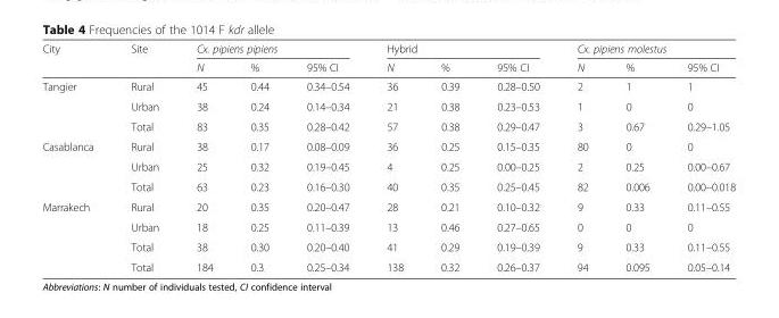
<table><thead><tr><td rowspan="2">City</td><td rowspan="2">Site</td><td colspan="3">Cx. pipiens pipiens</td><td colspan="3">Hybrid</td><td colspan="3">Cx. pipiens molestus</td></tr><tr><td>N</td><td>%</td><td>95% CI</td><td>N</td><td>%</td><td>95% CI</td><td>N</td><td>%</td><td>95% CI</td></tr></thead><tbody><tr><td rowspan="3">Tangier</td><td>Rural</td><td>45</td><td>0.44</td><td>0.34–0.54</td><td>36</td><td>0.39</td><td>0.28–0.50</td><td>2</td><td>1</td><td>1</td></tr><tr><td>Urban</td><td>38</td><td>0.24</td><td>0.14–0.34</td><td>21</td><td>0.38</td><td>0.23–0.53</td><td>1</td><td>0</td><td>0</td></tr><tr><td>Total</td><td>83</td><td>0.35</td><td>0.28–0.42</td><td>57</td><td>0.38</td><td>0.29–0.47</td><td>3</td><td>0.67</td><td>0.29–1.05</td></tr><tr><td rowspan="3">Casablanca</td><td>Rural</td><td>38</td><td>0.17</td><td>0.08–0.09</td><td>36</td><td>0.25</td><td>0.15–0.35</td><td>80</td><td>0</td><td>0</td></tr><tr><td>Urban</td><td>25</td><td>0.32</td><td>0.19–0.45</td><td>4</td><td>0.25</td><td>0.00–0.25</td><td>2</td><td>0.25</td><td>0.00–0.67</td></tr><tr><td>Total</td><td>63</td><td>0.23</td><td>0.16–0.30</td><td>40</td><td>0.35</td><td>0.25–0.45</td><td>82</td><td>0.006</td><td>0.00–0.018</td></tr><tr><td rowspan="4">Marrakech</td><td>Rural</td><td>20</td><td>0.35</td><td>0.20–0.47</td><td>28</td><td>0.21</td><td>0.10–0.32</td><td>9</td><td>0.33</td><td>0.11–0.55</td></tr><tr><td>Urban</td><td>18</td><td>0.25</td><td>0.11–0.39</td><td>13</td><td>0.46</td><td>0.27–0.65</td><td>0</td><td>0</td><td>0</td></tr><tr><td>Total</td><td>38</td><td>0.30</td><td>0.20–0.40</td><td>41</td><td>0.29</td><td>0.19–0.39</td><td>9</td><td>0.33</td><td>0.11–0.55</td></tr><tr><td>Total</td><td>184</td><td>0.3</td><td>0.25–0.34</td><td>138</td><td>0.32</td><td>0.26–0.37</td><td>94</td><td>0.095</td><td>0.05–0.14</td></tr></tbody></table>